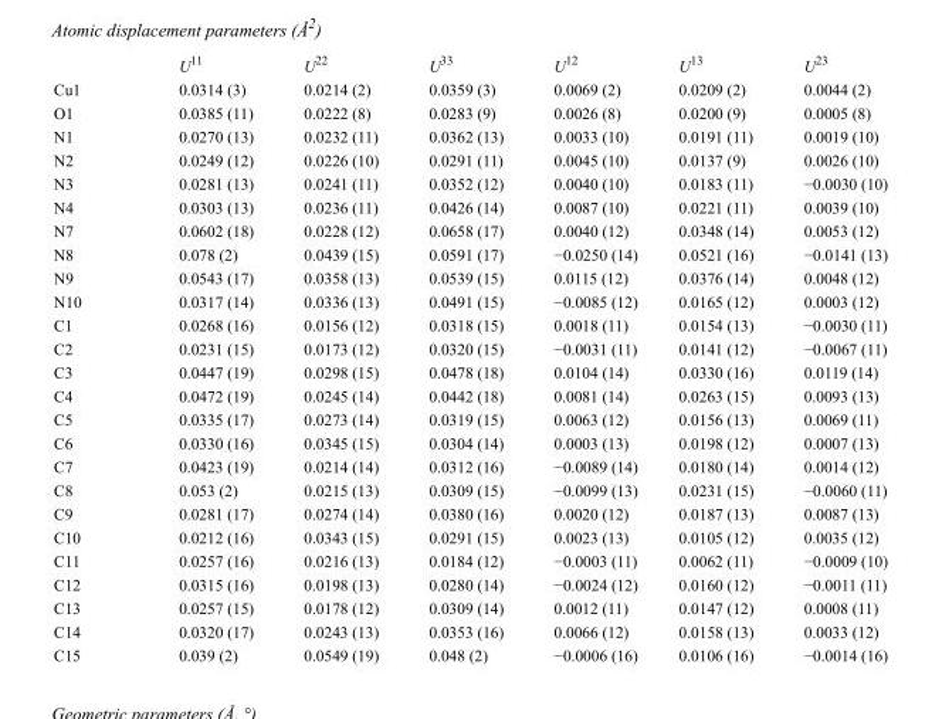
<table><thead><tr><td></td><td>U<sup>11</sup></td><td>U<sup>22</sup></td><td>U<sup>33</sup></td><td>U<sup>12</sup></td><td>U<sup>13</sup></td><td>U<sup>23</sup></td></tr></thead><tbody><tr><td>Cu1</td><td>0.0314 (3)</td><td>0.0214 (2)</td><td>0.0359 (3)</td><td>0.0069 (2)</td><td>0.0209 (2)</td><td>0.0044 (2)</td></tr><tr><td>O1</td><td>0.0385 (11)</td><td>0.0222 (8)</td><td>0.0283 (9)</td><td>0.0026 (8)</td><td>0.0200 (9)</td><td>0.0005 (8)</td></tr><tr><td>N1</td><td>0.0270 (13)</td><td>0.0232 (11)</td><td>0.0362 (13)</td><td>0.0033 (10)</td><td>0.0191 (11)</td><td>0.0019 (10)</td></tr><tr><td>N2</td><td>0.0249 (12)</td><td>0.0226 (10)</td><td>0.0291 (11)</td><td>0.0045 (10)</td><td>0.0137 (9)</td><td>0.0026 (10)</td></tr><tr><td>N3</td><td>0.0281 (13)</td><td>0.0241 (11)</td><td>0.0352 (12)</td><td>0.0040 (10)</td><td>0.0183 (11)</td><td>−0.0030 (10)</td></tr><tr><td>N4</td><td>0.0303 (13)</td><td>0.0236 (11)</td><td>0.0426 (14)</td><td>0.0087 (10)</td><td>0.0221 (11)</td><td>0.0039 (10)</td></tr><tr><td>N7</td><td>0.0602 (18)</td><td>0.0228 (12)</td><td>0.0658 (17)</td><td>0.0040 (12)</td><td>0.0348 (14)</td><td>0.0053 (12)</td></tr><tr><td>N8</td><td>0.078 (2)</td><td>0.0439 (15)</td><td>0.0591 (17)</td><td>−0.0250 (14)</td><td>0.0521 (16)</td><td>−0.0141 (13)</td></tr><tr><td>N9</td><td>0.0543 (17)</td><td>0.0358 (13)</td><td>0.0539 (15)</td><td>0.0115 (12)</td><td>0.0376 (14)</td><td>0.0048 (12)</td></tr><tr><td>N10</td><td>0.0317 (14)</td><td>0.0336 (13)</td><td>0.0491 (15)</td><td>−0.0085 (12)</td><td>0.0165 (12)</td><td>0.0003 (12)</td></tr><tr><td>C1</td><td>0.0268 (16)</td><td>0.0156 (12)</td><td>0.0318 (15)</td><td>0.0018 (11)</td><td>0.0154 (13)</td><td>−0.0030 (11)</td></tr><tr><td>C2</td><td>0.0231 (15)</td><td>0.0173 (12)</td><td>0.0320 (15)</td><td>−0.0031 (11)</td><td>0.0141 (12)</td><td>−0.0067 (11)</td></tr><tr><td>C3</td><td>0.0447 (19)</td><td>0.0298 (15)</td><td>0.0478 (18)</td><td>0.0104 (14)</td><td>0.0330 (16)</td><td>0.0119 (14)</td></tr><tr><td>C4</td><td>0.0472 (19)</td><td>0.0245 (14)</td><td>0.0442 (18)</td><td>0.0081 (14)</td><td>0.0263 (15)</td><td>0.0093 (13)</td></tr><tr><td>C5</td><td>0.0335 (17)</td><td>0.0273 (14)</td><td>0.0319 (15)</td><td>0.0063 (12)</td><td>0.0156 (13)</td><td>0.0069 (11)</td></tr><tr><td>C6</td><td>0.0330 (16)</td><td>0.0345 (15)</td><td>0.0304 (14)</td><td>0.0003 (13)</td><td>0.0198 (12)</td><td>0.0007 (13)</td></tr><tr><td>C7</td><td>0.0423 (19)</td><td>0.0214 (14)</td><td>0.0312 (16)</td><td>−0.0089 (14)</td><td>0.0180 (14)</td><td>0.0014 (12)</td></tr><tr><td>C8</td><td>0.053 (2)</td><td>0.0215 (13)</td><td>0.0309 (15)</td><td>−0.0099 (13)</td><td>0.0231 (15)</td><td>−0.0060 (11)</td></tr><tr><td>C9</td><td>0.0281 (17)</td><td>0.0274 (14)</td><td>0.0380 (16)</td><td>0.0020 (12)</td><td>0.0187 (13)</td><td>0.0087 (13)</td></tr><tr><td>C10</td><td>0.0212 (16)</td><td>0.0343 (15)</td><td>0.0291 (15)</td><td>0.0023 (13)</td><td>0.0105 (12)</td><td>0.0035 (12)</td></tr><tr><td>C11</td><td>0.0257 (16)</td><td>0.0216 (13)</td><td>0.0184 (12)</td><td>−0.0003 (11)</td><td>0.0062 (11)</td><td>−0.0009 (10)</td></tr><tr><td>C12</td><td>0.0315 (16)</td><td>0.0198 (13)</td><td>0.0280 (14)</td><td>−0.0024 (12)</td><td>0.0160 (12)</td><td>−0.0011 (11)</td></tr><tr><td>C13</td><td>0.0257 (15)</td><td>0.0178 (12)</td><td>0.0309 (14)</td><td>0.0012 (11)</td><td>0.0147 (12)</td><td>0.0008 (11)</td></tr><tr><td>C14</td><td>0.0320 (17)</td><td>0.0243 (13)</td><td>0.0353 (16)</td><td>0.0066 (12)</td><td>0.0158 (13)</td><td>0.0033 (12)</td></tr><tr><td>C15</td><td>0.039 (2)</td><td>0.0549 (19)</td><td>0.048 (2)</td><td>−0.0006 (16)</td><td>0.0106 (16)</td><td>−0.0014 (16)</td></tr></tbody></table>